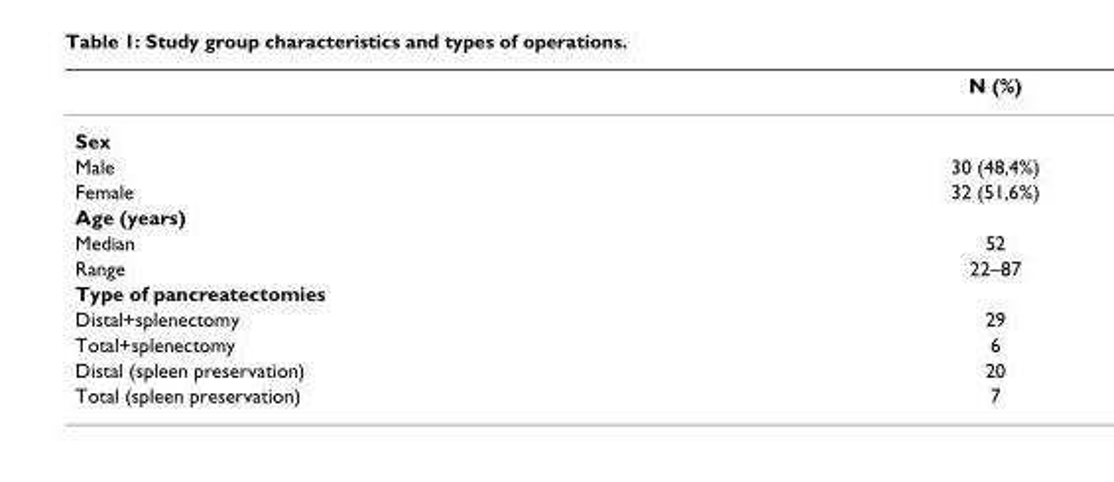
<table><thead><tr><td></td><td>N (%)</td></tr></thead><tbody><tr><td colspan="2">Sex</td></tr><tr><td>Male</td><td>30 (48,4%)</td></tr><tr><td>Female</td><td>32 (51,6%)</td></tr><tr><td colspan="2">Age (years)</td></tr><tr><td>Median</td><td>52</td></tr><tr><td>Range</td><td>22–87</td></tr><tr><td colspan="2">Type of pancreatectomies</td></tr><tr><td>Distal+splenectomy</td><td>29</td></tr><tr><td>Total+splenectomy</td><td>6</td></tr><tr><td>Distal (spleen preservation)</td><td>20</td></tr><tr><td>Total (spleen preservation)</td><td>7</td></tr></tbody></table>